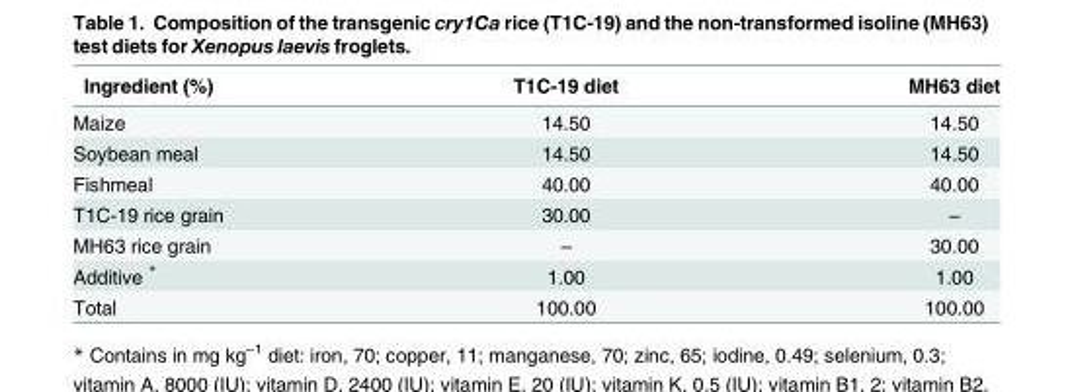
<table><thead><tr><td>Ingredient (%)</td><td>T1C-19 diet</td><td>MH63 diet</td></tr></thead><tbody><tr><td>Maize</td><td>14.50</td><td>14.50</td></tr><tr><td>Soybean meal</td><td>14.50</td><td>14.50</td></tr><tr><td>Fishmeal</td><td>40.00</td><td>40.00</td></tr><tr><td>T1C-19 rice grain</td><td>30.00</td><td>–</td></tr><tr><td>MH63 rice grain</td><td>–</td><td>30.00</td></tr><tr><td>Additive *</td><td>1.00</td><td>1.00</td></tr><tr><td>Total</td><td>100.00</td><td>100.00</td></tr></tbody></table>